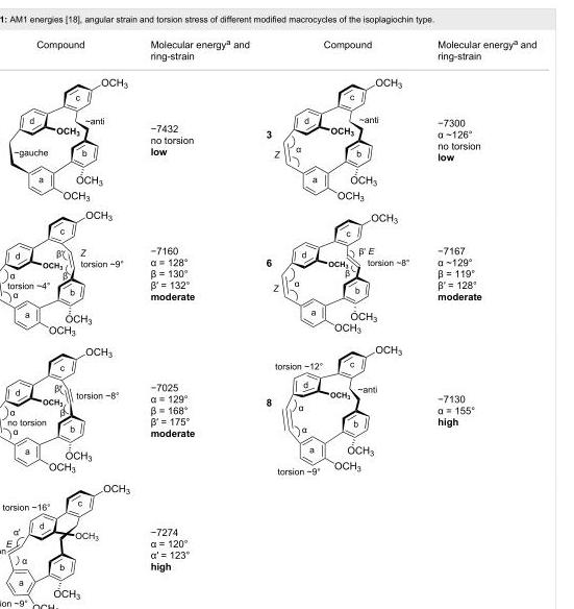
<table><tbody><tr><td rowspan="5">Compound</td><td>Molecular energy<sup>a</sup> and ring-strain</td><td>Compound</td><td>Molecular energy<sup>a</sup> and ring-strain</td></tr><tr><td>−7432 no torsion low</td><td></td><td>−7300 α ~126° no torsion low</td></tr><tr><td>−7160 α = 128° β = 130° β′ = 132° moderate</td><td></td><td>−7167 α ~129° β = 119° β′ = 128° moderate</td></tr><tr><td>−7025 α = 129° β = 168° β′ = 175° moderate</td><td></td><td>−7130 α = 155° high</td></tr><tr><td>−7274 α = 120° α′ = 123° high</td><td></td><td></td></tr></tbody></table>